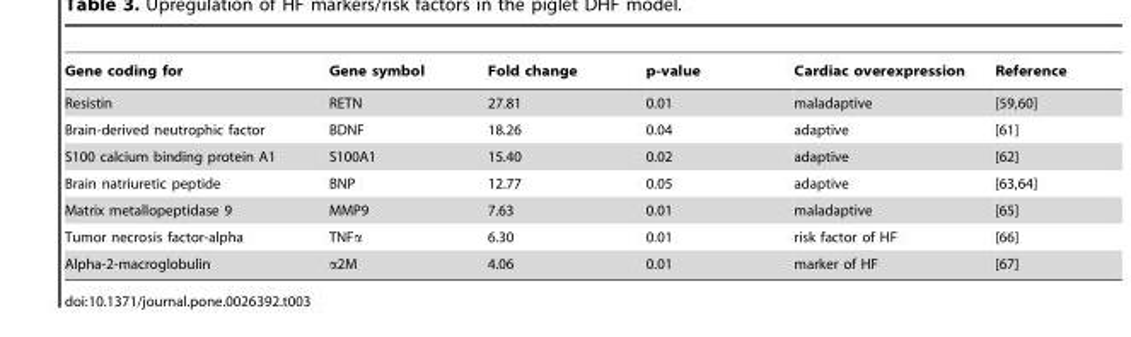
<table><thead><tr><td>Gene coding for</td><td>Gene symbol</td><td>Fold change</td><td>p-value</td><td>Cardiac overexpression</td><td>Reference</td></tr></thead><tbody><tr><td>Resistin</td><td>RETN</td><td>27.81</td><td>0.01</td><td>maladaptive</td><td>[59,60]</td></tr><tr><td>Brain-derived neutrophic factor</td><td>BDNF</td><td>18.26</td><td>0.04</td><td>adaptive</td><td>[61]</td></tr><tr><td>S100 calcium binding protein A1</td><td>S100A1</td><td>15.40</td><td>0.02</td><td>adaptive</td><td>[62]</td></tr><tr><td>Brain natriuretic peptide</td><td>BNP</td><td>12.77</td><td>0.05</td><td>adaptive</td><td>[63,64]</td></tr><tr><td>Matrix metallopeptidase 9</td><td>MMP9</td><td>7.63</td><td>0.01</td><td>maladaptive</td><td>[65]</td></tr><tr><td>Tumor necrosis factor-alpha</td><td>TNFα</td><td>6.30</td><td>0.01</td><td>risk factor of HF</td><td>[66]</td></tr><tr><td>Alpha-2-macroglobulin</td><td>α2M</td><td>4.06</td><td>0.01</td><td>marker of HF</td><td>[67]</td></tr></tbody></table>